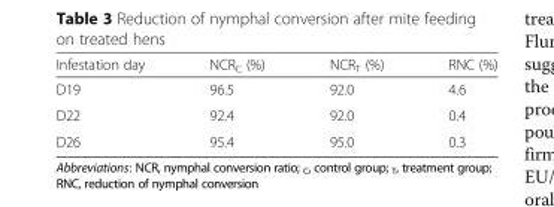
<table><thead><tr><td>Infestation day</td><td>NCR<sub>C</sub> (%)</td><td>NCR<sub>T</sub> (%)</td><td>RNC (%)</td></tr></thead><tbody><tr><td>D19</td><td>96.5</td><td>92.0</td><td>4.6</td></tr><tr><td>D22</td><td>92.4</td><td>92.0</td><td>0.4</td></tr><tr><td>D26</td><td>95.4</td><td>95.0</td><td>0.3</td></tr></tbody></table>